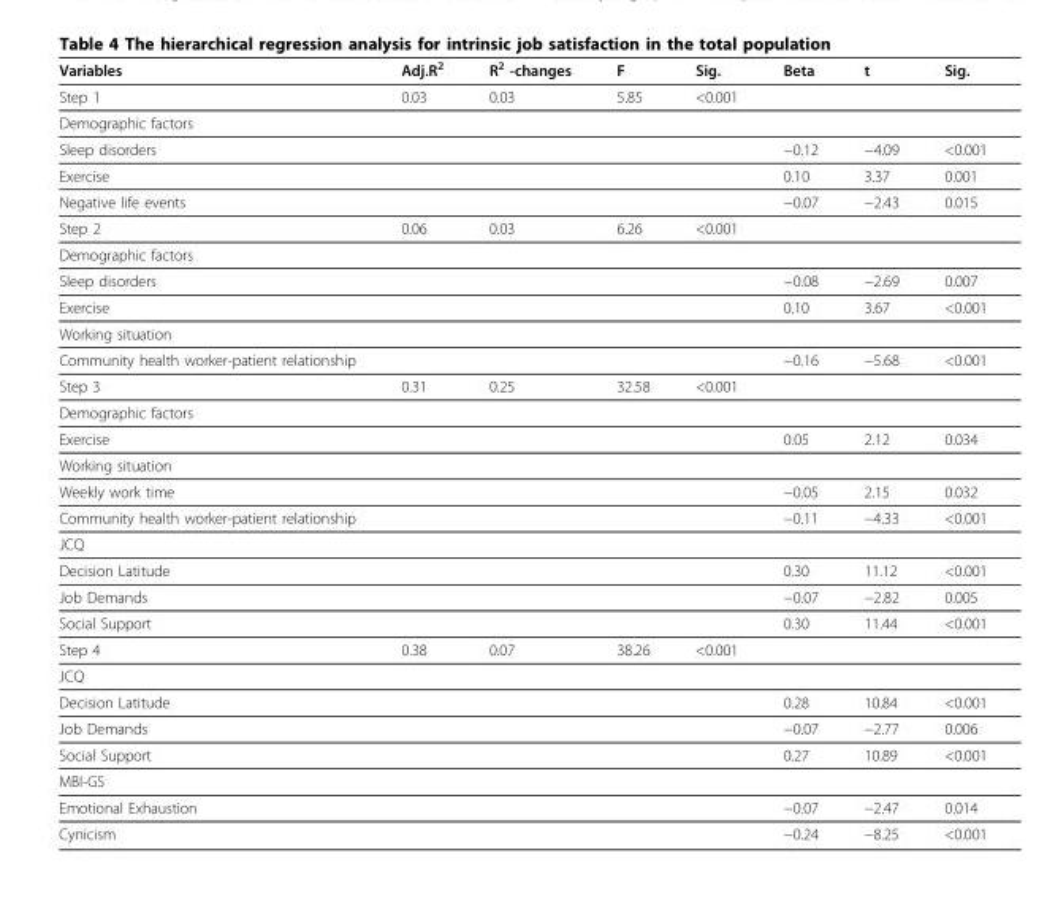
<table><thead><tr><td>Variables</td><td>Adj.R<sup>2</sup></td><td>R<sup>2</sup> -changes</td><td>F</td><td>Sig.</td><td>Beta</td><td>t</td><td>Sig.</td></tr></thead><tbody><tr><td>Step 1</td><td>0.03</td><td>0.03</td><td>5.85</td><td>&lt;0.001</td><td></td><td></td><td></td></tr><tr><td colspan="8">Demographic factors</td></tr><tr><td>Sleep disorders</td><td></td><td></td><td></td><td></td><td>−0.12</td><td>−4.09</td><td>&lt;0.001</td></tr><tr><td>Exercise</td><td></td><td></td><td></td><td></td><td>0.10</td><td>3.37</td><td>0.001</td></tr><tr><td>Negative life events</td><td></td><td></td><td></td><td></td><td>−0.07</td><td>−2.43</td><td>0.015</td></tr><tr><td>Step 2</td><td>0.06</td><td>0.03</td><td>6.26</td><td>&lt;0.001</td><td></td><td></td><td></td></tr><tr><td colspan="8">Demographic factors</td></tr><tr><td>Sleep disorders</td><td></td><td></td><td></td><td></td><td>−0.08</td><td>−2.69</td><td>0.007</td></tr><tr><td>Exercise</td><td></td><td></td><td></td><td></td><td>0.10</td><td>3.67</td><td>&lt;0.001</td></tr><tr><td colspan="8">Working situation</td></tr><tr><td>Community health worker-patient relationship</td><td></td><td></td><td></td><td></td><td>−0.16</td><td>−5.68</td><td>&lt;0.001</td></tr><tr><td>Step 3</td><td>0.31</td><td>0.25</td><td>32.58</td><td>&lt;0.001</td><td></td><td></td><td></td></tr><tr><td colspan="8">Demographic factors</td></tr><tr><td>Exercise</td><td></td><td></td><td></td><td></td><td>0.05</td><td>2.12</td><td>0.034</td></tr><tr><td colspan="8">Working situation</td></tr><tr><td>Weekly work time</td><td></td><td></td><td></td><td></td><td>−0.05</td><td>2.15</td><td>0.032</td></tr><tr><td>Community health worker-patient relationship</td><td></td><td></td><td></td><td></td><td>−0.11</td><td>−4.33</td><td>&lt;0.001</td></tr><tr><td colspan="8">JCQ</td></tr><tr><td>Decision Latitude</td><td></td><td></td><td></td><td></td><td>0.30</td><td>11.12</td><td>&lt;0.001</td></tr><tr><td>Job Demands</td><td></td><td></td><td></td><td></td><td>−0.07</td><td>−2.82</td><td>0.005</td></tr><tr><td>Social Support</td><td></td><td></td><td></td><td></td><td>0.30</td><td>11.44</td><td>&lt;0.001</td></tr><tr><td>Step 4</td><td>0.38</td><td>0.07</td><td>38.26</td><td>&lt;0.001</td><td></td><td></td><td></td></tr><tr><td colspan="8">JCQ</td></tr><tr><td>Decision Latitude</td><td></td><td></td><td></td><td></td><td>0.28</td><td>10.84</td><td>&lt;0.001</td></tr><tr><td>Job Demands</td><td></td><td></td><td></td><td></td><td>−0.07</td><td>−2.77</td><td>0.006</td></tr><tr><td>Social Support</td><td></td><td></td><td></td><td></td><td>0.27</td><td>10.89</td><td>&lt;0.001</td></tr><tr><td colspan="8">MBI-GS</td></tr><tr><td>Emotional Exhaustion</td><td></td><td></td><td></td><td></td><td>−0.07</td><td>−2.47</td><td>0.014</td></tr><tr><td>Cynicism</td><td></td><td></td><td></td><td></td><td>−0.24</td><td>−8.25</td><td>&lt;0.001</td></tr></tbody></table>